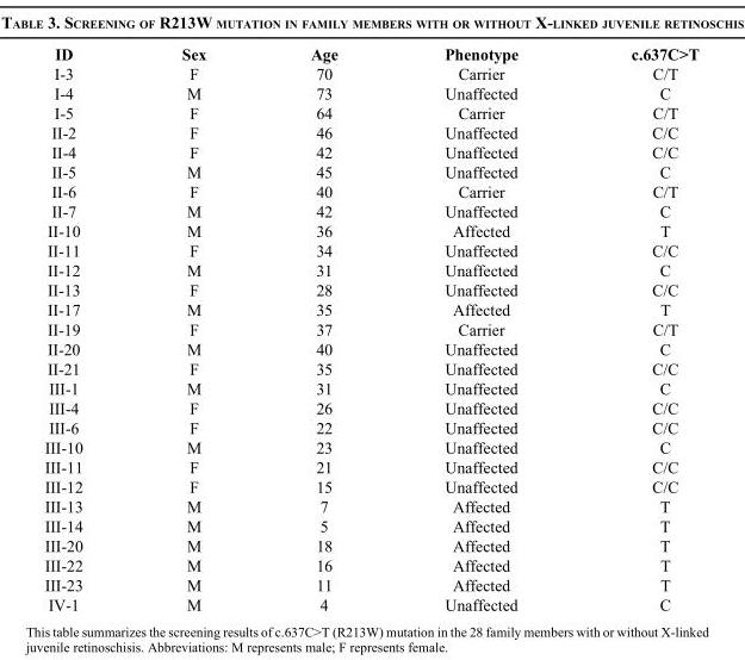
<table><thead><tr><td>ID</td><td>Sex</td><td>Age</td><td>Phenotype</td><td>c.637C&gt;T</td></tr></thead><tbody><tr><td>I-3</td><td>F</td><td>70</td><td>Carrier</td><td>C/T</td></tr><tr><td>I-4</td><td>M</td><td>73</td><td>Unaffected</td><td>C</td></tr><tr><td>I-5</td><td>F</td><td>64</td><td>Carrier</td><td>C/T</td></tr><tr><td>II-2</td><td>F</td><td>46</td><td>Unaffected</td><td>C/C</td></tr><tr><td>II-4</td><td>F</td><td>42</td><td>Unaffected</td><td>C/C</td></tr><tr><td>II-5</td><td>M</td><td>45</td><td>Unaffected</td><td>C</td></tr><tr><td>II-6</td><td>F</td><td>40</td><td>Carrier</td><td>C/T</td></tr><tr><td>II-7</td><td>M</td><td>42</td><td>Unaffected</td><td>C</td></tr><tr><td>II-10</td><td>M</td><td>36</td><td>Affected</td><td>T</td></tr><tr><td>II-11</td><td>F</td><td>34</td><td>Unaffected</td><td>C/C</td></tr><tr><td>II-12</td><td>M</td><td>31</td><td>Unaffected</td><td>C</td></tr><tr><td>II-13</td><td>F</td><td>28</td><td>Unaffected</td><td>C/C</td></tr><tr><td>II-17</td><td>M</td><td>35</td><td>Affected</td><td>T</td></tr><tr><td>II-19</td><td>F</td><td>37</td><td>Carrier</td><td>C/T</td></tr><tr><td>II-20</td><td>M</td><td>40</td><td>Unaffected</td><td>C</td></tr><tr><td>II-21</td><td>F</td><td>35</td><td>Unaffected</td><td>C/C</td></tr><tr><td>III-1</td><td>M</td><td>31</td><td>Unaffected</td><td>C</td></tr><tr><td>III-4</td><td>F</td><td>26</td><td>Unaffected</td><td>C/C</td></tr><tr><td>III-6</td><td>F</td><td>22</td><td>Unaffected</td><td>C/C</td></tr><tr><td>III-10</td><td>M</td><td>23</td><td>Unaffected</td><td>C</td></tr><tr><td>III-11</td><td>F</td><td>21</td><td>Unaffected</td><td>C/C</td></tr><tr><td>III-12</td><td>F</td><td>15</td><td>Unaffected</td><td>C/C</td></tr><tr><td>III-13</td><td>M</td><td>7</td><td>Affected</td><td>T</td></tr><tr><td>III-14</td><td>M</td><td>5</td><td>Affected</td><td>T</td></tr><tr><td>III-20</td><td>M</td><td>18</td><td>Affected</td><td>T</td></tr><tr><td>III-22</td><td>M</td><td>16</td><td>Affected</td><td>T</td></tr><tr><td>III-23</td><td>M</td><td>11</td><td>Affected</td><td>T</td></tr><tr><td>IV-1</td><td>M</td><td>4</td><td>Unaffected</td><td>C</td></tr></tbody></table>